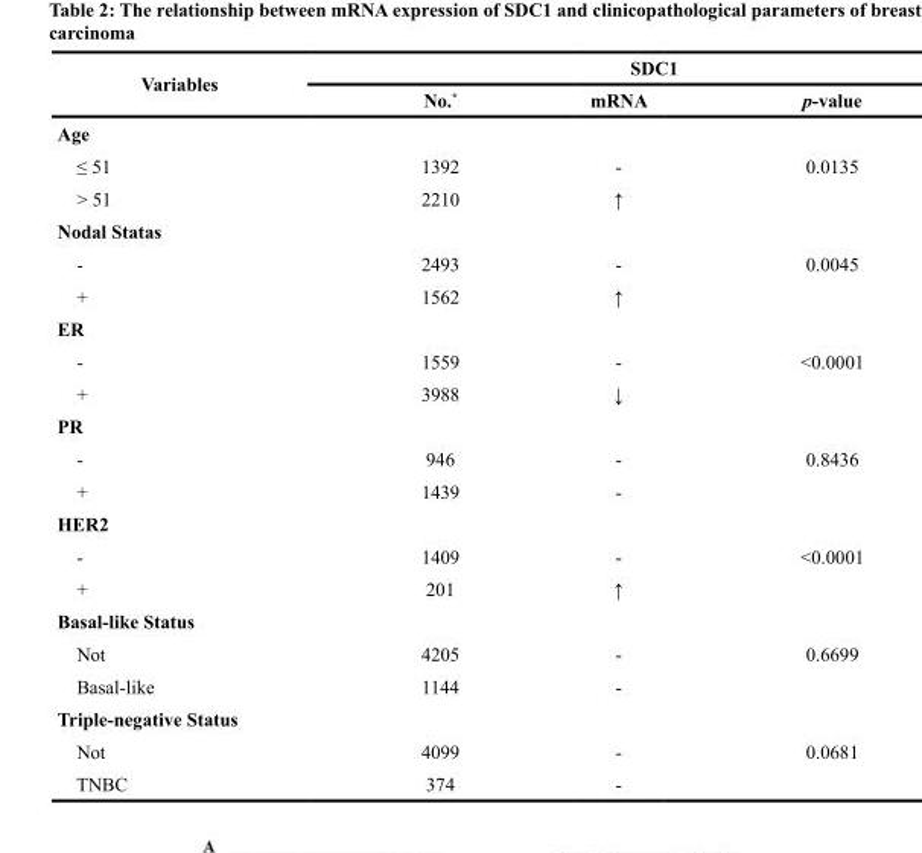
<table><thead><tr><td rowspan="2">Variables</td><td colspan="3">SDC1</td></tr><tr><td>No.*</td><td>mRNA</td><td>p-value</td></tr></thead><tbody><tr><td colspan="4">Age</td></tr><tr><td>≤ 51</td><td>1392</td><td>-</td><td>0.0135</td></tr><tr><td>&gt; 51</td><td>2210</td><td>↑</td><td></td></tr><tr><td colspan="4">Nodal Statas</td></tr><tr><td>-</td><td>2493</td><td>-</td><td>0.0045</td></tr><tr><td>+</td><td>1562</td><td>↑</td><td></td></tr><tr><td colspan="4">ER</td></tr><tr><td>-</td><td>1559</td><td>-</td><td>&lt;0.0001</td></tr><tr><td>+</td><td>3988</td><td>↓</td><td></td></tr><tr><td colspan="4">PR</td></tr><tr><td>-</td><td>946</td><td>-</td><td>0.8436</td></tr><tr><td>+</td><td>1439</td><td>-</td><td></td></tr><tr><td colspan="4">HER2</td></tr><tr><td>-</td><td>1409</td><td>-</td><td>&lt;0.0001</td></tr><tr><td>+</td><td>201</td><td>↑</td><td></td></tr><tr><td colspan="4">Basal-like Status</td></tr><tr><td>Not</td><td>4205</td><td>-</td><td>0.6699</td></tr><tr><td>Basal-like</td><td>1144</td><td>-</td><td></td></tr><tr><td colspan="4">Triple-negative Status</td></tr><tr><td>Not</td><td>4099</td><td>-</td><td>0.0681</td></tr><tr><td>TNBC</td><td>374</td><td>-</td><td></td></tr></tbody></table>